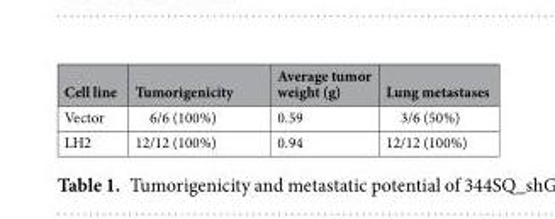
<table><thead><tr><td>Cell line</td><td>Tumorigenicity</td><td>Average tumor weight (g)</td><td>Lung metastases</td></tr></thead><tbody><tr><td>Vector</td><td>6/6 (100%)</td><td>0.59</td><td>3/6 (50%)</td></tr><tr><td>LH2</td><td>12/12 (100%)</td><td>0.94</td><td>12/12 (100%)</td></tr></tbody></table>